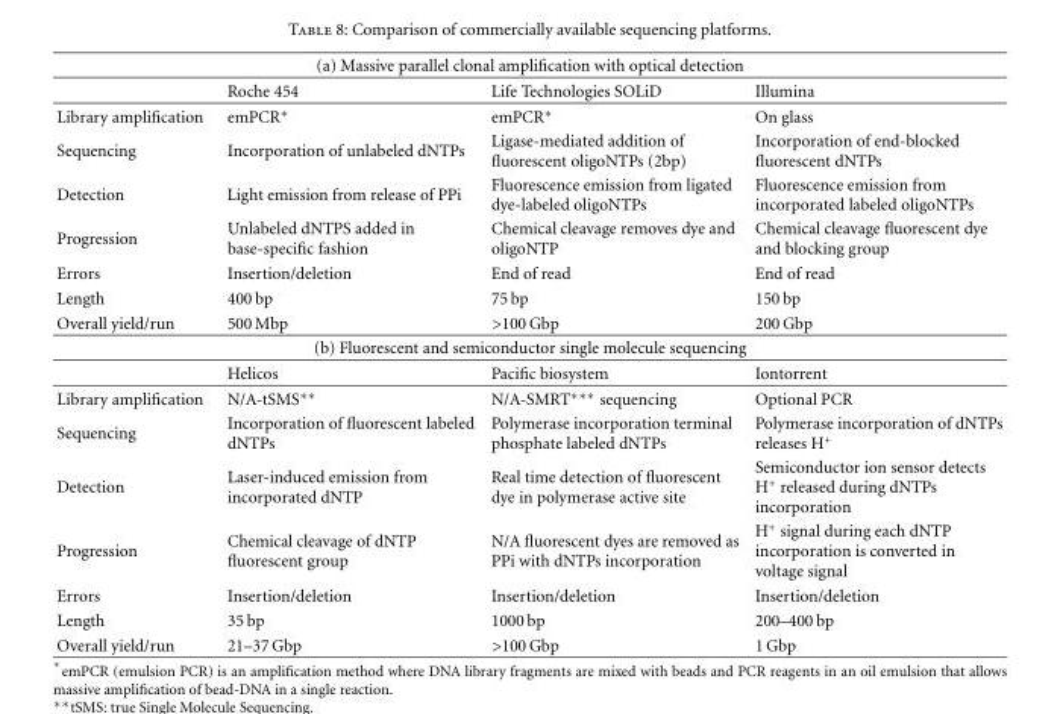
<table><thead><tr><td rowspan="2"></td><td colspan="2">(a) Massive parallel clonal amplification with optical detection</td><td rowspan="2">Illumina</td></tr><tr><td>Roche 454</td><td>Life Technologies SOLiD</td></tr></thead><tbody><tr><td>Library amplification</td><td>emPCR∗</td><td>emPCR∗</td><td>On glass</td></tr><tr><td>Sequencing</td><td>Incorporation of unlabeled dNTPs</td><td>Ligase-mediated addition of fluorescent oligoNTPs (2bp)</td><td>Incorporation of end-blocked fluorescent dNTPs</td></tr><tr><td>Detection</td><td>Light emission from release of PPi</td><td>Fluorescence emission from ligated dye-labeled oligoNTPs</td><td>Fluorescence emission from incorporated labeled oligoNTPs</td></tr><tr><td>Progression</td><td>Unlabeled dNTPS added in base-specific fashion</td><td>Chemical cleavage removes dye and oligoNTP</td><td>Chemical cleavage fluorescent dye and blocking group</td></tr><tr><td>Errors</td><td>Insertion/deletion</td><td>End of read</td><td>End of read</td></tr><tr><td>Length</td><td>400 bp</td><td>75 bp</td><td>150 bp</td></tr><tr><td rowspan="3">Overall yield/run</td><td>500 Mbp</td><td>&gt;100 Gbp</td><td>200 Gbp</td></tr><tr><td colspan="2">(b) Fluorescent and semiconductor single molecule sequencing</td><td></td></tr><tr><td>Helicos</td><td>Pacific biosystem</td><td>Iontorrent</td></tr><tr><td>Library amplification</td><td>N/A-tSMS∗∗</td><td>N/A-SMRT∗∗∗ sequencing</td><td>Optional PCR</td></tr><tr><td>Sequencing</td><td>Incorporation of fluorescent labeled dNTPs</td><td>Polymerase incorporation terminal phosphate labeled dNTPs</td><td>Polymerase incorporation of dNTPs releases H<sup>+</sup></td></tr><tr><td>Detection</td><td>Laser-induced emission from incorporated dNTP</td><td>Real time detection of fluorescent dye in polymerase active site</td><td>Semiconductor ion sensor detects H<sup>+</sup> released during dNTPs incorporation</td></tr><tr><td>Progression</td><td>Chemical cleavage of dNTP fluorescent group</td><td>N/A fluorescent dyes are removed as PPi with dNTPs incorporation</td><td>H<sup>+</sup> signal during each dNTP incorporation is converted in voltage signal</td></tr><tr><td>Errors</td><td>Insertion/deletion</td><td>Insertion/deletion</td><td>Insertion/deletion</td></tr><tr><td>Length</td><td>35 bp</td><td>1000 bp</td><td>200–400 bp</td></tr><tr><td>Overall yield/run</td><td>21–37 Gbp</td><td>&gt;100 Gbp</td><td>1 Gbp</td></tr></tbody></table>